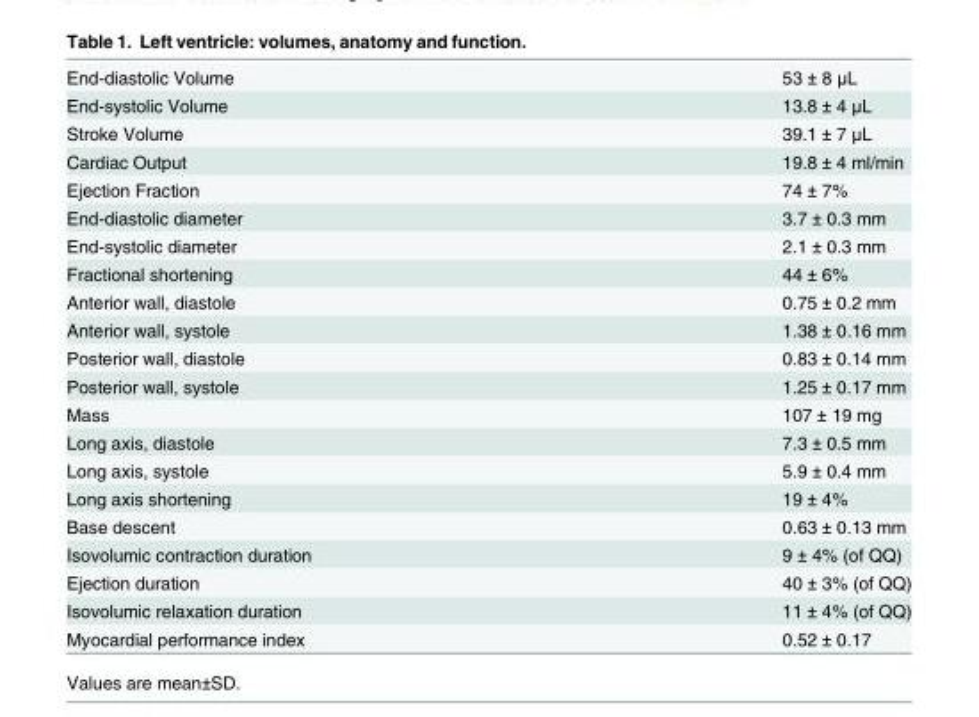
<table><tbody><tr><td>End-diastolic Volume</td><td>53 ± 8 μL</td></tr><tr><td>End-systolic Volume</td><td>13.8 ± 4 μL</td></tr><tr><td>Stroke Volume</td><td>39.1 ± 7 μL</td></tr><tr><td>Cardiac Output</td><td>19.8 ± 4 ml/min</td></tr><tr><td>Ejection Fraction</td><td>74 ± 7%</td></tr><tr><td>End-diastolic diameter</td><td>3.7 ± 0.3 mm</td></tr><tr><td>End-systolic diameter</td><td>2.1 ± 0.3 mm</td></tr><tr><td>Fractional shortening</td><td>44 ± 6%</td></tr><tr><td>Anterior wall, diastole</td><td>0.75 ± 0.2 mm</td></tr><tr><td>Anterior wall, systole</td><td>1.38 ± 0.16 mm</td></tr><tr><td>Posterior wall, diastole</td><td>0.83 ± 0.14 mm</td></tr><tr><td>Posterior wall, systole</td><td>1.25 ± 0.17 mm</td></tr><tr><td>Mass</td><td>107 ± 19 mg</td></tr><tr><td>Long axis, diastole</td><td>7.3 ± 0.5 mm</td></tr><tr><td>Long axis, systole</td><td>5.9 ± 0.4 mm</td></tr><tr><td>Long axis shortening</td><td>19 ± 4%</td></tr><tr><td>Base descent</td><td>0.63 ± 0.13 mm</td></tr><tr><td>Isovolumic contraction duration</td><td>9 ± 4% (of QQ)</td></tr><tr><td>Ejection duration</td><td>40 ± 3% (of QQ)</td></tr><tr><td>Isovolumic relaxation duration</td><td>11 ± 4% (of QQ)</td></tr><tr><td>Myocardial performance index</td><td>0.52 ± 0.17</td></tr></tbody></table>